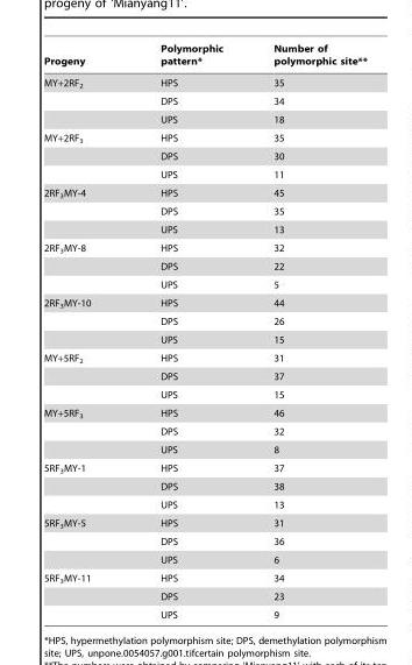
<table><thead><tr><td>Progeny</td><td>Polymorphic pattern*</td><td>Number of polymorphic site**</td></tr></thead><tbody><tr><td rowspan="3">MY+2RF<sub>2</sub></td><td>HPS</td><td>35</td></tr><tr><td>DPS</td><td>34</td></tr><tr><td>UPS</td><td>18</td></tr><tr><td rowspan="3">MY+2RF<sub>3</sub></td><td>HPS</td><td>35</td></tr><tr><td>DPS</td><td>30</td></tr><tr><td>UPS</td><td>11</td></tr><tr><td rowspan="3">2RF<sub>3</sub>MY-4</td><td>HPS</td><td>45</td></tr><tr><td>DPS</td><td>35</td></tr><tr><td>UPS</td><td>13</td></tr><tr><td rowspan="3">2RF<sub>3</sub>MY-8</td><td>HPS</td><td>32</td></tr><tr><td>DPS</td><td>22</td></tr><tr><td>UPS</td><td>5</td></tr><tr><td rowspan="3">2RF<sub>3</sub>MY-10</td><td>HPS</td><td>44</td></tr><tr><td>DPS</td><td>26</td></tr><tr><td>UPS</td><td>15</td></tr><tr><td rowspan="3">MY+5RF<sub>2</sub></td><td>HPS</td><td>31</td></tr><tr><td>DPS</td><td>37</td></tr><tr><td>UPS</td><td>15</td></tr><tr><td rowspan="3">MY+5RF<sub>3</sub></td><td>HPS</td><td>46</td></tr><tr><td>DPS</td><td>32</td></tr><tr><td>UPS</td><td>8</td></tr><tr><td rowspan="3">5RF<sub>3</sub>MY-1</td><td>HPS</td><td>37</td></tr><tr><td>DPS</td><td>38</td></tr><tr><td>UPS</td><td>13</td></tr><tr><td rowspan="3">5RF<sub>3</sub>MY-5</td><td>HPS</td><td>31</td></tr><tr><td>DPS</td><td>36</td></tr><tr><td>UPS</td><td>6</td></tr><tr><td rowspan="3">5RF<sub>3</sub>MY-11</td><td>HPS</td><td>34</td></tr><tr><td>DPS</td><td>23</td></tr><tr><td>UPS</td><td>9</td></tr></tbody></table>